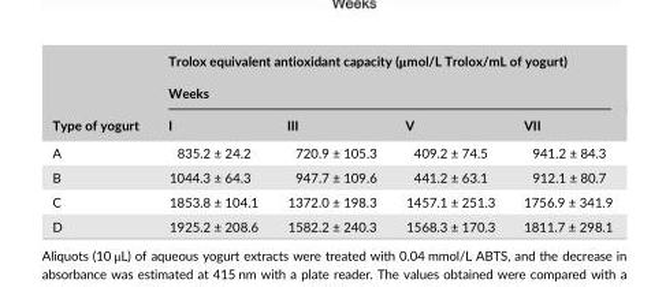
<table><thead><tr><td rowspan="3">Type of yogurt</td><td rowspan="2" colspan="4">Trolox equivalent antioxidant capacity (μmol/L Trolox/mL of yogurt) Weeks</td></tr><tr></tr><tr><td>I</td><td>III</td><td>V</td><td>VII</td></tr></thead><tbody><tr><td>A</td><td>835.2 ± 24.2</td><td>720.9 ± 105.3</td><td>409.2 ± 74.5</td><td>941.2 ± 84.3</td></tr><tr><td>B</td><td>1044.3 ± 64.3</td><td>947.7 ± 109.6</td><td>441.2 ± 63.1</td><td>912.1 ± 80.7</td></tr><tr><td>C</td><td>1853.8 ± 104.1</td><td>1372.0 ± 198.3</td><td>1457.1 ± 251.3</td><td>1756.9 ± 341.9</td></tr><tr><td>D</td><td>1925.2 ± 208.6</td><td>1582.2 ± 240.3</td><td>1568.3 ± 170.3</td><td>1811.7 ± 298.1</td></tr></tbody></table>